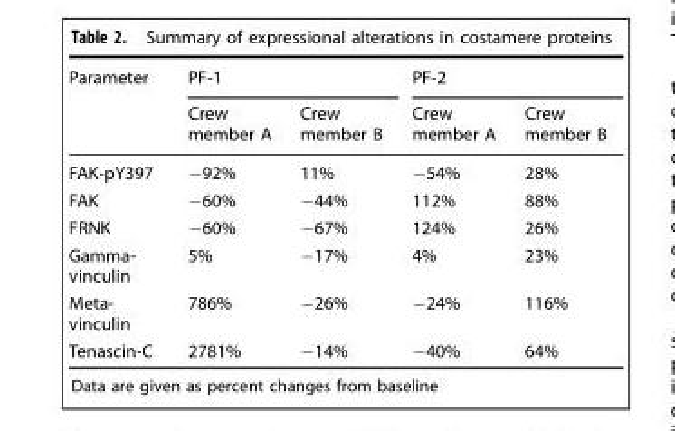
<table><thead><tr><td rowspan="2">Parameter</td><td colspan="2">PF-1</td><td colspan="2">PF-2</td></tr><tr><td>Crew member A</td><td>Crew member B</td><td>Crew member A</td><td>Crew member B</td></tr></thead><tbody><tr><td>FAK-pY397</td><td>−92%</td><td>11%</td><td>−54%</td><td>28%</td></tr><tr><td>FAK</td><td>−60%</td><td>−44%</td><td>112%</td><td>88%</td></tr><tr><td>FRNK</td><td>−60%</td><td>−67%</td><td>124%</td><td>26%</td></tr><tr><td>Gamma- vinculin</td><td>5%</td><td>−17%</td><td>4%</td><td>23%</td></tr><tr><td>Meta- vinculin</td><td>786%</td><td>−26%</td><td>−24%</td><td>116%</td></tr><tr><td>Tenascin-C</td><td>2781%</td><td>−14%</td><td>−40%</td><td>64%</td></tr></tbody></table>